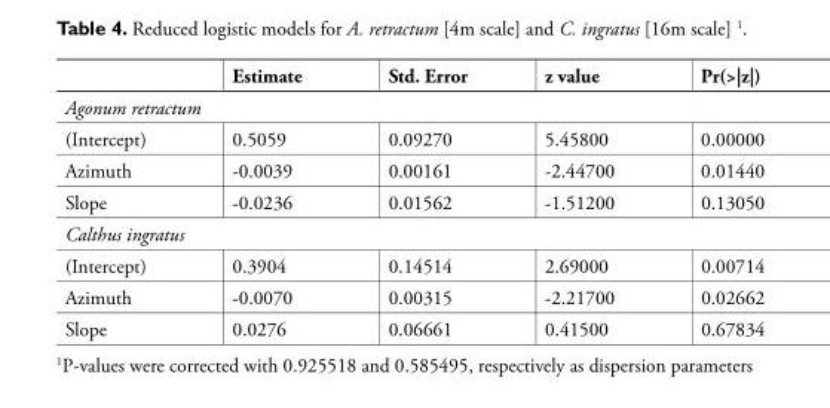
<table><thead><tr><td></td><td>Estimate</td><td>Std. Error</td><td>z value</td><td>Pr(&gt;|z|)</td></tr></thead><tbody><tr><td colspan="5">Agonum retractum</td></tr><tr><td>(Intercept)</td><td>0.5059</td><td>0.09270</td><td>5.45800</td><td>0.00000</td></tr><tr><td>Azimuth</td><td>-0.0039</td><td>0.00161</td><td>-2.44700</td><td>0.01440</td></tr><tr><td>Slope</td><td>-0.0236</td><td>0.01562</td><td>-1.51200</td><td>0.13050</td></tr><tr><td colspan="5">Calthus ingratus</td></tr><tr><td>(Intercept)</td><td>0.3904</td><td>0.14514</td><td>2.69000</td><td>0.00714</td></tr><tr><td>Azimuth</td><td>-0.0070</td><td>0.00315</td><td>-2.21700</td><td>0.02662</td></tr><tr><td>Slope</td><td>0.0276</td><td>0.06661</td><td>0.41500</td><td>0.67834</td></tr></tbody></table>